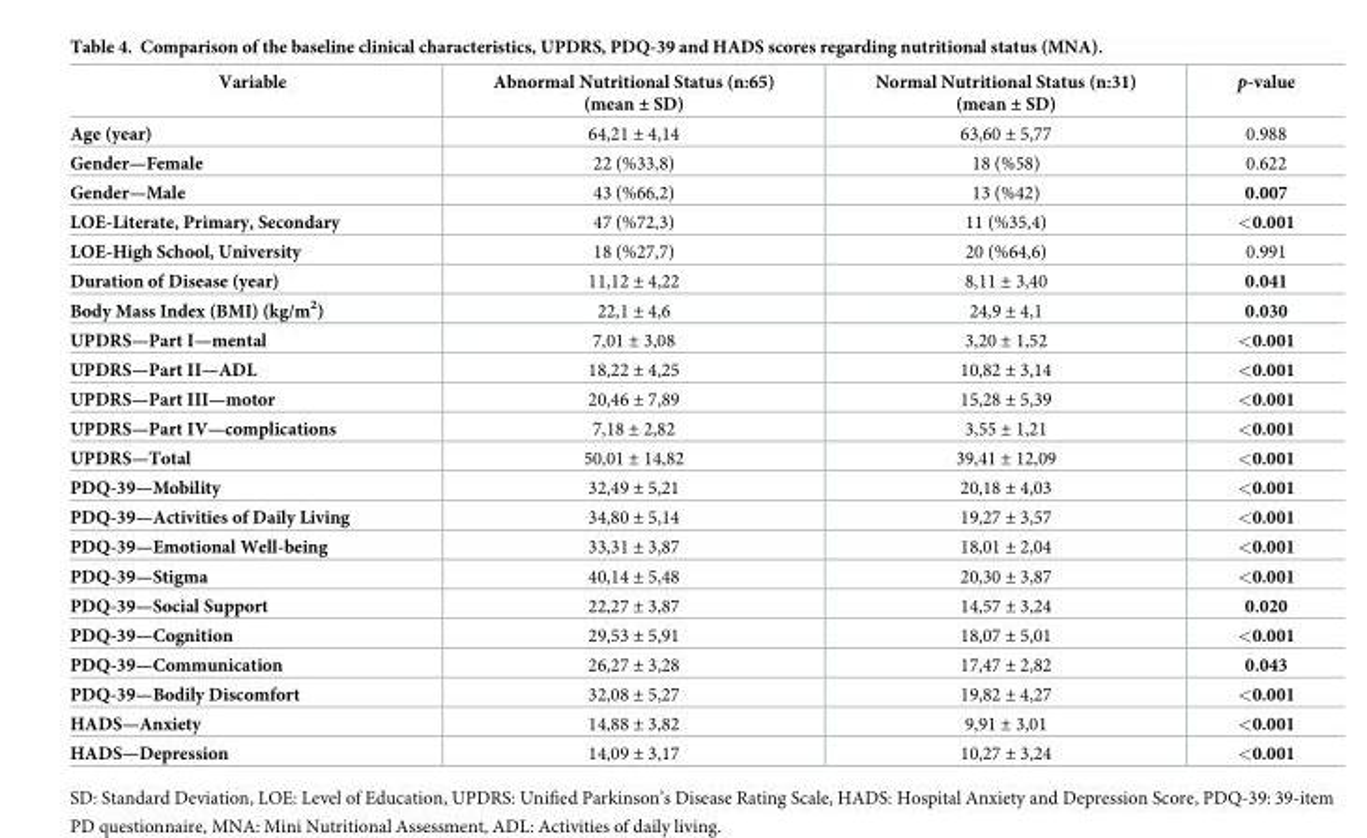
<table><thead><tr><td>Variable</td><td>Abnormal Nutritional Status (n:65) (mean ± SD)</td><td>Normal Nutritional Status (n:31) (mean ± SD)</td><td>p-value</td></tr></thead><tbody><tr><td>Age (year)</td><td>64,21 ± 4,14</td><td>63,60 ± 5,77</td><td>0.988</td></tr><tr><td>Gender—Female</td><td>22 (%33,8)</td><td>18 (%58)</td><td>0.622</td></tr><tr><td>Gender—Male</td><td>43 (%66,2)</td><td>13 (%42)</td><td>0.007</td></tr><tr><td>LOE-Literate, Primary, Secondary</td><td>47 (%72,3)</td><td>11 (%35,4)</td><td>&lt;0.001</td></tr><tr><td>LOE-High School, University</td><td>18 (%27,7)</td><td>20 (%64,6)</td><td>0.991</td></tr><tr><td>Duration of Disease (year)</td><td>11,12 ± 4,22</td><td>8,11 ± 3,40</td><td>0.041</td></tr><tr><td>Body Mass Index (BMI) (kg/m<sup>2</sup>)</td><td>22,1 ± 4,6</td><td>24,9 ± 4,1</td><td>0.030</td></tr><tr><td>UPDRS—Part I—mental</td><td>7,01 ± 3,08</td><td>3,20 ± 1,52</td><td>&lt;0.001</td></tr><tr><td>UPDRS—Part II—ADL</td><td>18,22 ± 4,25</td><td>10,82 ± 3,14</td><td>&lt;0.001</td></tr><tr><td>UPDRS—Part III—motor</td><td>20,46 ± 7,89</td><td>15,28 ± 5,39</td><td>&lt;0.001</td></tr><tr><td>UPDRS—Part IV—complications</td><td>7,18 ± 2,82</td><td>3,55 ± 1,21</td><td>&lt;0.001</td></tr><tr><td>UPDRS—Total</td><td>50,01 ± 14,82</td><td>39,41 ± 12,09</td><td>&lt;0.001</td></tr><tr><td>PDQ-39—Mobility</td><td>32,49 ± 5,21</td><td>20,18 ± 4,03</td><td>&lt;0.001</td></tr><tr><td>PDQ-39—Activities of Daily Living</td><td>34,80 ± 5,14</td><td>19,27 ± 3,57</td><td>&lt;0.001</td></tr><tr><td>PDQ-39—Emotional Well-being</td><td>33,31 ± 3,87</td><td>18,01 ± 2,04</td><td>&lt;0.001</td></tr><tr><td>PDQ-39—Stigma</td><td>40,14 ± 5,48</td><td>20,30 ± 3,87</td><td>&lt;0.001</td></tr><tr><td>PDQ-39—Social Support</td><td>22,27 ± 3,87</td><td>14,57 ± 3,24</td><td>0.020</td></tr><tr><td>PDQ-39—Cognition</td><td>29,53 ± 5,91</td><td>18,07 ± 5,01</td><td>&lt;0.001</td></tr><tr><td>PDQ-39—Communication</td><td>26,27 ± 3,28</td><td>17,47 ± 2,82</td><td>0.043</td></tr><tr><td>PDQ-39—Bodily Discomfort</td><td>32,08 ± 5,27</td><td>19,82 ± 4,27</td><td>&lt;0.001</td></tr><tr><td>HADS—Anxiety</td><td>14,88 ± 3,82</td><td>9,91 ± 3,01</td><td>&lt;0.001</td></tr><tr><td>HADS—Depression</td><td>14,09 ± 3,17</td><td>10,27 ± 3,24</td><td>&lt;0.001</td></tr></tbody></table>